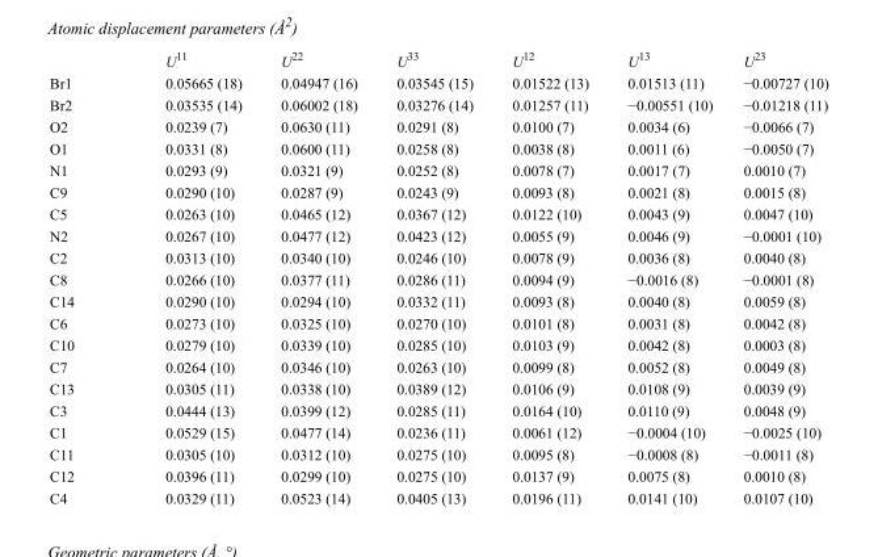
<table><thead><tr><td></td><td>U<sup>11</sup></td><td>U<sup>22</sup></td><td>U<sup>33</sup></td><td>U<sup>12</sup></td><td>U<sup>13</sup></td><td>U<sup>23</sup></td></tr></thead><tbody><tr><td>Br1</td><td>0.05665 (18)</td><td>0.04947 (16)</td><td>0.03545 (15)</td><td>0.01522 (13)</td><td>0.01513 (11)</td><td>−0.00727 (10)</td></tr><tr><td>Br2</td><td>0.03535 (14)</td><td>0.06002 (18)</td><td>0.03276 (14)</td><td>0.01257 (11)</td><td>−0.00551 (10)</td><td>−0.01218 (11)</td></tr><tr><td>O2</td><td>0.0239 (7)</td><td>0.0630 (11)</td><td>0.0291 (8)</td><td>0.0100 (7)</td><td>0.0034 (6)</td><td>−0.0066 (7)</td></tr><tr><td>O1</td><td>0.0331 (8)</td><td>0.0600 (11)</td><td>0.0258 (8)</td><td>0.0038 (8)</td><td>0.0011 (6)</td><td>−0.0050 (7)</td></tr><tr><td>N1</td><td>0.0293 (9)</td><td>0.0321 (9)</td><td>0.0252 (8)</td><td>0.0078 (7)</td><td>0.0017 (7)</td><td>0.0010 (7)</td></tr><tr><td>C9</td><td>0.0290 (10)</td><td>0.0287 (9)</td><td>0.0243 (9)</td><td>0.0093 (8)</td><td>0.0021 (8)</td><td>0.0015 (8)</td></tr><tr><td>C5</td><td>0.0263 (10)</td><td>0.0465 (12)</td><td>0.0367 (12)</td><td>0.0122 (10)</td><td>0.0043 (9)</td><td>0.0047 (10)</td></tr><tr><td>N2</td><td>0.0267 (10)</td><td>0.0477 (12)</td><td>0.0423 (12)</td><td>0.0055 (9)</td><td>0.0046 (9)</td><td>−0.0001 (10)</td></tr><tr><td>C2</td><td>0.0313 (10)</td><td>0.0340 (10)</td><td>0.0246 (10)</td><td>0.0078 (9)</td><td>0.0036 (8)</td><td>0.0040 (8)</td></tr><tr><td>C8</td><td>0.0266 (10)</td><td>0.0377 (11)</td><td>0.0286 (11)</td><td>0.0094 (9)</td><td>−0.0016 (8)</td><td>−0.0001 (8)</td></tr><tr><td>C14</td><td>0.0290 (10)</td><td>0.0294 (10)</td><td>0.0332 (11)</td><td>0.0093 (8)</td><td>0.0040 (8)</td><td>0.0059 (8)</td></tr><tr><td>C6</td><td>0.0273 (10)</td><td>0.0325 (10)</td><td>0.0270 (10)</td><td>0.0101 (8)</td><td>0.0031 (8)</td><td>0.0042 (8)</td></tr><tr><td>C10</td><td>0.0279 (10)</td><td>0.0339 (10)</td><td>0.0285 (10)</td><td>0.0103 (9)</td><td>0.0042 (8)</td><td>0.0003 (8)</td></tr><tr><td>C7</td><td>0.0264 (10)</td><td>0.0346 (10)</td><td>0.0263 (10)</td><td>0.0099 (8)</td><td>0.0052 (8)</td><td>0.0049 (8)</td></tr><tr><td>C13</td><td>0.0305 (11)</td><td>0.0338 (10)</td><td>0.0389 (12)</td><td>0.0106 (9)</td><td>0.0108 (9)</td><td>0.0039 (9)</td></tr><tr><td>C3</td><td>0.0444 (13)</td><td>0.0399 (12)</td><td>0.0285 (11)</td><td>0.0164 (10)</td><td>0.0110 (9)</td><td>0.0048 (9)</td></tr><tr><td>C1</td><td>0.0529 (15)</td><td>0.0477 (14)</td><td>0.0236 (11)</td><td>0.0061 (12)</td><td>−0.0004 (10)</td><td>−0.0025 (10)</td></tr><tr><td>C11</td><td>0.0305 (10)</td><td>0.0312 (10)</td><td>0.0275 (10)</td><td>0.0095 (8)</td><td>−0.0008 (8)</td><td>−0.0011 (8)</td></tr><tr><td>C12</td><td>0.0396 (11)</td><td>0.0299 (10)</td><td>0.0275 (10)</td><td>0.0137 (9)</td><td>0.0075 (8)</td><td>0.0010 (8)</td></tr><tr><td>C4</td><td>0.0329 (11)</td><td>0.0523 (14)</td><td>0.0405 (13)</td><td>0.0196 (11)</td><td>0.0141 (10)</td><td>0.0107 (10)</td></tr></tbody></table>